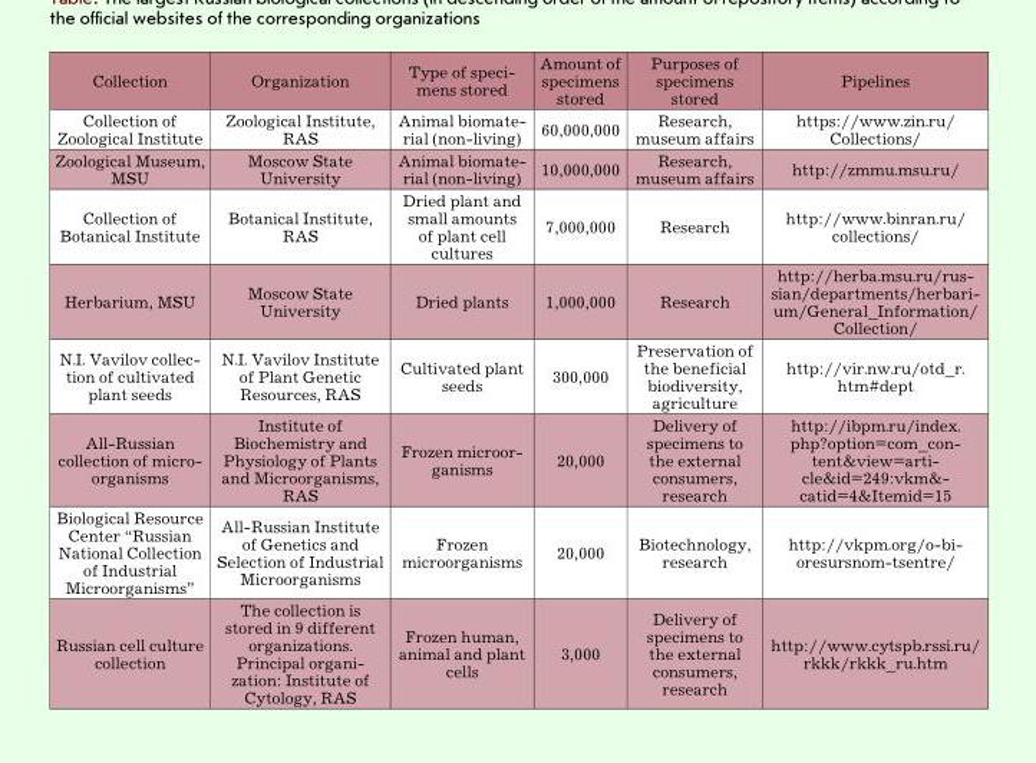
<table><thead><tr><td>Collection</td><td>Organization</td><td>Type of speci- mens stored</td><td>Amount of specimens stored</td><td>Purposes of specimens stored</td><td>Pipelines</td></tr></thead><tbody><tr><td>Collection of Zoological Institute</td><td>Zoological Institute, RAS</td><td>Animal biomate- rial (non-living)</td><td>60,000,000</td><td>Research, museum affairs</td><td>https://www.zin.ru/ Collections/</td></tr><tr><td>Zoological Museum, MSU</td><td>Moscow State University</td><td>Animal biomate- rial (non-living)</td><td>10,000,000</td><td>Research, museum affairs</td><td>http://zmmu.msu.ru/</td></tr><tr><td>Collection of Botanical Institute</td><td>Botanical Institute, RAS</td><td>Dried plant and small amounts of plant cell cultures</td><td>7,000,000</td><td>Research</td><td>http://www.binran.ru/ collections/</td></tr><tr><td>Herbarium, MSU</td><td>Moscow State University</td><td>Dried plants</td><td>1,000,000</td><td>Research</td><td>http://herba.msu.ru/rus- sian/departments/herbari- um/General_Information/ Collection/</td></tr><tr><td>N.I. Vavilov collec- tion of cultivated plant seeds</td><td>N.I. Vavilov Institute of Plant Genetic Resources, RAS</td><td>Cultivated plant seeds</td><td>300,000</td><td>Preservation of the beneficial biodiversity, agriculture</td><td>http://vir.nw.ru/otd_r. htm#dept</td></tr><tr><td>All-Russian collection of micro- organisms</td><td>Institute of Biochemistry and Physiology of Plants and Microorganisms, RAS</td><td>Frozen microor- ganisms</td><td>20,000</td><td>Delivery of specimens to the external consumers, research</td><td>http://ibpm.ru/index. php?option=com_con- tent&amp;view=arti- cle&amp;id=249:vkm&amp;- catid=4&amp;Itemid=15</td></tr><tr><td>Biological Resource Center “Russian National Collection of Industrial Microorganisms”</td><td>All-Russian Institute of Genetics and Selection of Industrial Microorganisms</td><td>Frozen microorganisms</td><td>20,000</td><td>Biotechnology, research</td><td>http://vkpm.org/o-bi- oresursnom-tsentre/</td></tr><tr><td>Russian cell culture collection</td><td>The collection is stored in 9 different organizations. Principal organi- zation: Institute of Cytology, RAS</td><td>Frozen human, animal and plant cells</td><td>3,000</td><td>Delivery of specimens to the external consumers, research</td><td>http://www.cytspb.rssi.ru/ rkkk/rkkk_ru.htm</td></tr></tbody></table>